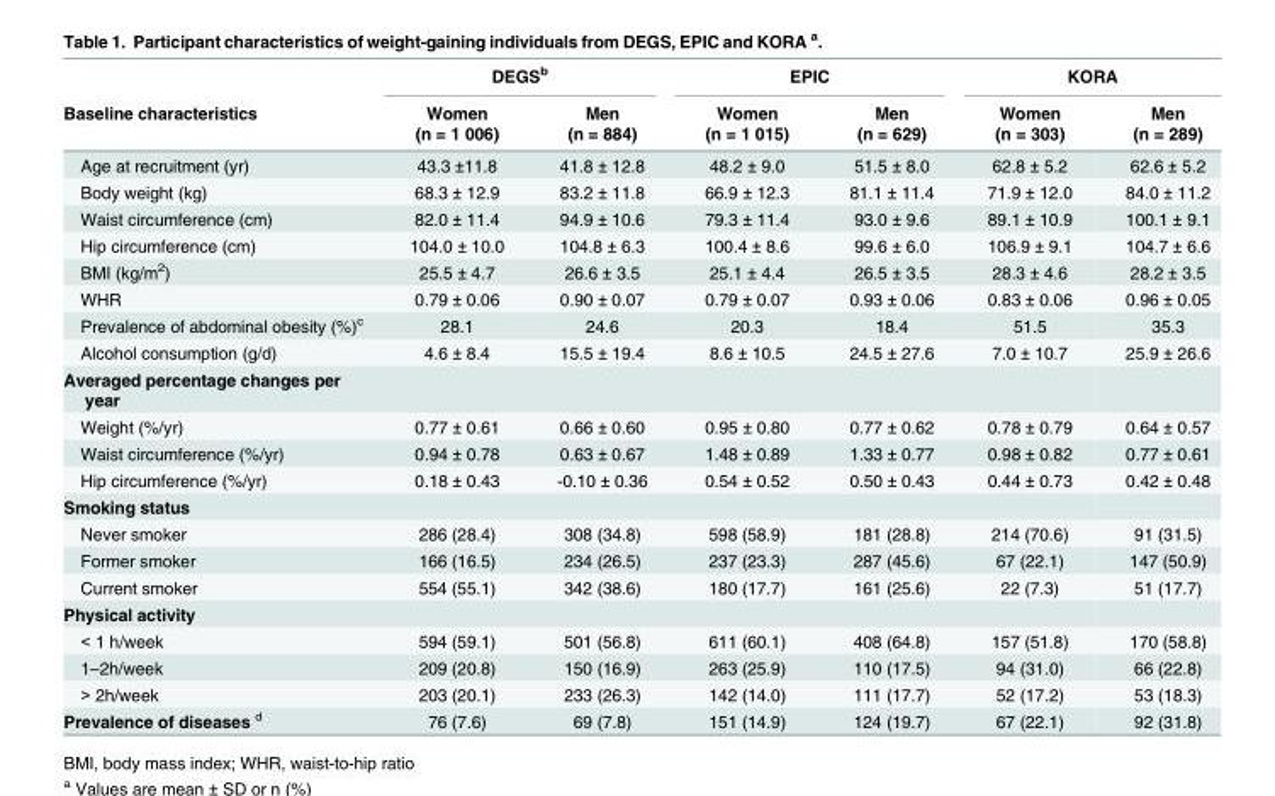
<table><thead><tr><td rowspan="2">Baseline characteristics</td><td colspan="2">DEGS<sup>b</sup></td><td colspan="2">EPIC</td><td colspan="2">KORA</td></tr><tr><td>Women (n = 1 006)</td><td>Men (n = 884)</td><td>Women (n = 1 015)</td><td>Men (n = 629)</td><td>Women (n = 303)</td><td>Men (n = 289)</td></tr></thead><tbody><tr><td>Age at recruitment (yr)</td><td>43.3 ±11.8</td><td>41.8 ± 12.8</td><td>48.2 ± 9.0</td><td>51.5 ± 8.0</td><td>62.8 ± 5.2</td><td>62.6 ± 5.2</td></tr><tr><td>Body weight (kg)</td><td>68.3 ± 12.9</td><td>83.2 ± 11.8</td><td>66.9 ± 12.3</td><td>81.1 ± 11.4</td><td>71.9 ± 12.0</td><td>84.0 ± 11.2</td></tr><tr><td>Waist circumference (cm)</td><td>82.0 ± 11.4</td><td>94.9 ± 10.6</td><td>79.3 ± 11.4</td><td>93.0 ± 9.6</td><td>89.1 ± 10.9</td><td>100.1 ± 9.1</td></tr><tr><td>Hip circumference (cm)</td><td>104.0 ± 10.0</td><td>104.8 ± 6.3</td><td>100.4 ± 8.6</td><td>99.6 ± 6.0</td><td>106.9 ± 9.1</td><td>104.7 ± 6.6</td></tr><tr><td>BMI (kg/m<sup>2</sup>)</td><td>25.5 ± 4.7</td><td>26.6 ± 3.5</td><td>25.1 ± 4.4</td><td>26.5 ± 3.5</td><td>28.3 ± 4.6</td><td>28.2 ± 3.5</td></tr><tr><td>WHR</td><td>0.79 ± 0.06</td><td>0.90 ± 0.07</td><td>0.79 ± 0.07</td><td>0.93 ± 0.06</td><td>0.83 ± 0.06</td><td>0.96 ± 0.05</td></tr><tr><td>Prevalence of abdominal obesity (%)<sup>c</sup></td><td>28.1</td><td>24.6</td><td>20.3</td><td>18.4</td><td>51.5</td><td>35.3</td></tr><tr><td>Alcohol consumption (g/d)</td><td>4.6 ± 8.4</td><td>15.5 ± 19.4</td><td>8.6 ± 10.5</td><td>24.5 ± 27.6</td><td>7.0 ± 10.7</td><td>25.9 ± 26.6</td></tr><tr><td colspan="7">Averaged percentage changes per year</td></tr><tr><td>Weight (%/yr)</td><td>0.77 ± 0.61</td><td>0.66 ± 0.60</td><td>0.95 ± 0.80</td><td>0.77 ± 0.62</td><td>0.78 ± 0.79</td><td>0.64 ± 0.57</td></tr><tr><td>Waist circumference (%/yr)</td><td>0.94 ± 0.78</td><td>0.63 ± 0.67</td><td>1.48 ± 0.89</td><td>1.33 ± 0.77</td><td>0.98 ± 0.82</td><td>0.77 ± 0.61</td></tr><tr><td>Hip circumference (%/yr)</td><td>0.18 ± 0.43</td><td>-0.10 ± 0.36</td><td>0.54 ± 0.52</td><td>0.50 ± 0.43</td><td>0.44 ± 0.73</td><td>0.42 ± 0.48</td></tr><tr><td colspan="7">Smoking status</td></tr><tr><td>Never smoker</td><td>286 (28.4)</td><td>308 (34.8)</td><td>598 (58.9)</td><td>181 (28.8)</td><td>214 (70.6)</td><td>91 (31.5)</td></tr><tr><td>Former smoker</td><td>166 (16.5)</td><td>234 (26.5)</td><td>237 (23.3)</td><td>287 (45.6)</td><td>67 (22.1)</td><td>147 (50.9)</td></tr><tr><td>Current smoker</td><td>554 (55.1)</td><td>342 (38.6)</td><td>180 (17.7)</td><td>161 (25.6)</td><td>22 (7.3)</td><td>51 (17.7)</td></tr><tr><td colspan="7">Physical activity</td></tr><tr><td>&lt; 1 h/week</td><td>594 (59.1)</td><td>501 (56.8)</td><td>611 (60.1)</td><td>408 (64.8)</td><td>157 (51.8)</td><td>170 (58.8)</td></tr><tr><td>1–2h/week</td><td>209 (20.8)</td><td>150 (16.9)</td><td>263 (25.9)</td><td>110 (17.5)</td><td>94 (31.0)</td><td>66 (22.8)</td></tr><tr><td>&gt; 2h/week</td><td>203 (20.1)</td><td>233 (26.3)</td><td>142 (14.0)</td><td>111 (17.7)</td><td>52 (17.2)</td><td>53 (18.3)</td></tr><tr><td>Prevalence of diseases <sup>d</sup></td><td>76 (7.6)</td><td>69 (7.8)</td><td>151 (14.9)</td><td>124 (19.7)</td><td>67 (22.1)</td><td>92 (31.8)</td></tr></tbody></table>